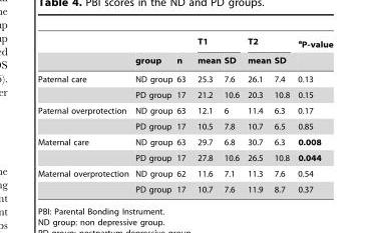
<table><thead><tr><td rowspan="2"></td><td rowspan="2">group</td><td rowspan="2">n</td><td colspan="2">T1</td><td colspan="2">T2</td><td rowspan="2"><sup>a</sup>P-value</td></tr><tr><td>mean</td><td>SD</td><td>mean</td><td>SD</td></tr></thead><tbody><tr><td rowspan="2">Paternal care</td><td>ND group</td><td>63</td><td>25.3</td><td>7.6</td><td>26.1</td><td>7.4</td><td>0.13</td></tr><tr><td>PD group</td><td>17</td><td>21.2</td><td>10.6</td><td>20.3</td><td>10.8</td><td>0.15</td></tr><tr><td rowspan="2">Paternal overprotection</td><td>ND group</td><td>63</td><td>12.1</td><td>6</td><td>11.4</td><td>6.3</td><td>0.17</td></tr><tr><td>PD group</td><td>17</td><td>10.5</td><td>7.8</td><td>10.7</td><td>6.5</td><td>0.85</td></tr><tr><td rowspan="2">Maternal care</td><td>ND group</td><td>63</td><td>29.7</td><td>6.8</td><td>30.7</td><td>6.3</td><td>0.008</td></tr><tr><td>PD group</td><td>17</td><td>27.8</td><td>10.6</td><td>26.5</td><td>10.8</td><td>0.044</td></tr><tr><td rowspan="2">Maternal overprotection</td><td>ND group</td><td>62</td><td>11.6</td><td>7.1</td><td>11.3</td><td>7.6</td><td>0.54</td></tr><tr><td>PD group</td><td>17</td><td>10.7</td><td>7.6</td><td>11.9</td><td>8.7</td><td>0.37</td></tr></tbody></table>